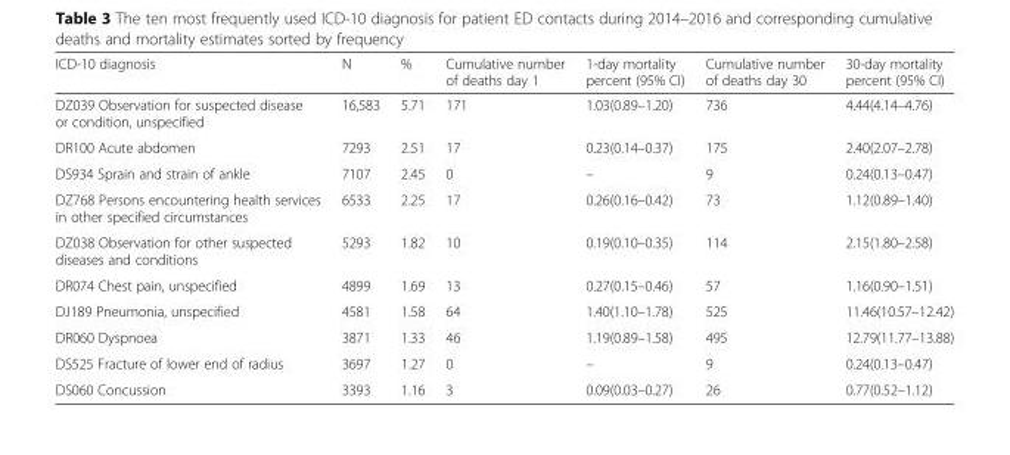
<table><thead><tr><td>ICD-10 diagnosis</td><td>N</td><td>%</td><td>Cumulative number of deaths day 1</td><td>1-day mortality percent (95% CI)</td><td>Cumulative number of deaths day 30</td><td>30-day mortality percent (95% CI)</td></tr></thead><tbody><tr><td>DZ039 Observation for suspected disease or condition, unspecified</td><td>16,583</td><td>5.71</td><td>171</td><td>1.03(0.89–1.20)</td><td>736</td><td>4.44(4.14–4.76)</td></tr><tr><td>DR100 Acute abdomen</td><td>7293</td><td>2.51</td><td>17</td><td>0.23(0.14–0.37)</td><td>175</td><td>2.40(2.07–2.78)</td></tr><tr><td>DS934 Sprain and strain of ankle</td><td>7107</td><td>2.45</td><td>0</td><td>–</td><td>9</td><td>0.24(0.13–0.47)</td></tr><tr><td>DZ768 Persons encountering health services in other specified circumstances</td><td>6533</td><td>2.25</td><td>17</td><td>0.26(0.16–0.42)</td><td>73</td><td>1.12(0.89–1.40)</td></tr><tr><td>DZ038 Observation for other suspected diseases and conditions</td><td>5293</td><td>1.82</td><td>10</td><td>0.19(0.10–0.35)</td><td>114</td><td>2.15(1.80–2.58)</td></tr><tr><td>DR074 Chest pain, unspecified</td><td>4899</td><td>1.69</td><td>13</td><td>0.27(0.15–0.46)</td><td>57</td><td>1.16(0.90–1.51)</td></tr><tr><td>DJ189 Pneumonia, unspecified</td><td>4581</td><td>1.58</td><td>64</td><td>1.40(1.10–1.78)</td><td>525</td><td>11.46(10.57–12.42)</td></tr><tr><td>DR060 Dyspnoea</td><td>3871</td><td>1.33</td><td>46</td><td>1.19(0.89–1.58)</td><td>495</td><td>12.79(11.77–13.88)</td></tr><tr><td>DS525 Fracture of lower end of radius</td><td>3697</td><td>1.27</td><td>0</td><td>–</td><td>9</td><td>0.24(0.13–0.47)</td></tr><tr><td>DS060 Concussion</td><td>3393</td><td>1.16</td><td>3</td><td>0.09(0.03–0.27)</td><td>26</td><td>0.77(0.52–1.12)</td></tr></tbody></table>